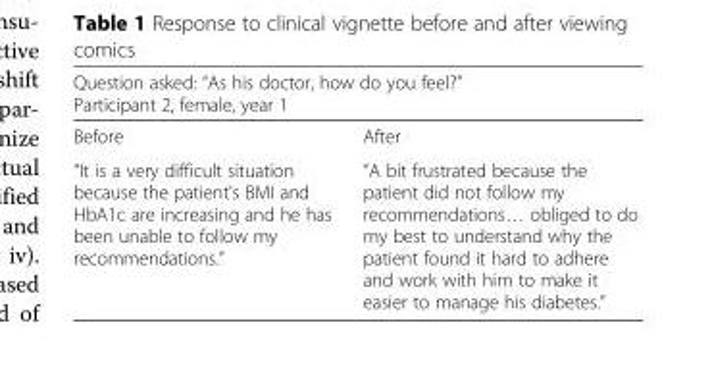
<table><thead><tr><td colspan="2">Question asked: “As his doctor, how do you feel?” Participant 2, female, year 1</td></tr><tr><td>Before</td><td>After</td></tr></thead><tbody><tr><td>“It is a very difficult situation because the patient&#x27;s BMI and HbA1c are increasing and he has been unable to follow my recommendations.”</td><td>“A bit frustrated because the patient did not follow my recommendations… obliged to do my best to understand why the patient found it hard to adhere and work with him to make it easier to manage his diabetes.”</td></tr></tbody></table>